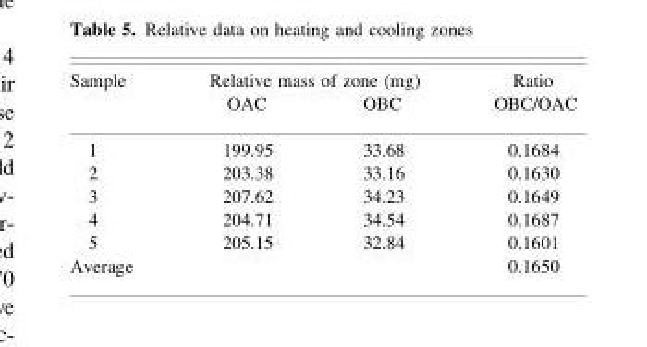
<table><thead><tr><td rowspan="2">Sample</td><td colspan="2">Relative mass of zone (mg)</td><td rowspan="2">Ratio OBC/OAC</td></tr><tr><td>OAC</td><td>OBC</td></tr></thead><tbody><tr><td>1</td><td>199.95</td><td>33.68</td><td>0.1684</td></tr><tr><td>2</td><td>203.38</td><td>33.16</td><td>0.1630</td></tr><tr><td>3</td><td>207.62</td><td>34.23</td><td>0.1649</td></tr><tr><td>4</td><td>204.71</td><td>34.54</td><td>0.1687</td></tr><tr><td>5</td><td>205.15</td><td>32.84</td><td>0.1601</td></tr><tr><td>Average</td><td></td><td></td><td>0.1650</td></tr></tbody></table>